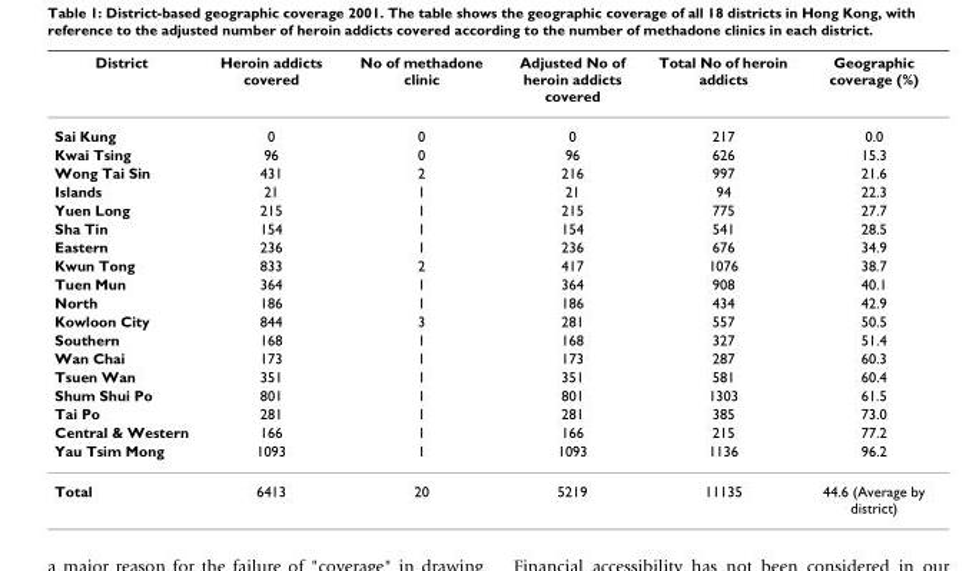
<table><thead><tr><td>District</td><td>Heroin addicts covered</td><td>No of methadone clinic</td><td>Adjusted No of heroin addicts covered</td><td>Total No of heroin addicts</td><td>Geographic coverage (%)</td></tr></thead><tbody><tr><td>Sai Kung</td><td>0</td><td>0</td><td>0</td><td>217</td><td>0.0</td></tr><tr><td>Kwai Tsing</td><td>96</td><td>0</td><td>96</td><td>626</td><td>15.3</td></tr><tr><td>Wong Tai Sin</td><td>431</td><td>2</td><td>216</td><td>997</td><td>21.6</td></tr><tr><td>Islands</td><td>21</td><td>1</td><td>21</td><td>94</td><td>22.3</td></tr><tr><td>Yuen Long</td><td>215</td><td>1</td><td>215</td><td>775</td><td>27.7</td></tr><tr><td>Sha Tin</td><td>154</td><td>1</td><td>154</td><td>541</td><td>28.5</td></tr><tr><td>Eastern</td><td>236</td><td>1</td><td>236</td><td>676</td><td>34.9</td></tr><tr><td>Kwun Tong</td><td>833</td><td>2</td><td>417</td><td>1076</td><td>38.7</td></tr><tr><td>Tuen Mun</td><td>364</td><td>1</td><td>364</td><td>908</td><td>40.1</td></tr><tr><td>North</td><td>186</td><td>1</td><td>186</td><td>434</td><td>42.9</td></tr><tr><td>Kowloon City</td><td>844</td><td>3</td><td>281</td><td>557</td><td>50.5</td></tr><tr><td>Southern</td><td>168</td><td>1</td><td>168</td><td>327</td><td>51.4</td></tr><tr><td>Wan Chai</td><td>173</td><td>1</td><td>173</td><td>287</td><td>60.3</td></tr><tr><td>Tsuen Wan</td><td>351</td><td>1</td><td>351</td><td>581</td><td>60.4</td></tr><tr><td>Shum Shui Po</td><td>801</td><td>1</td><td>801</td><td>1303</td><td>61.5</td></tr><tr><td>Tai Po</td><td>281</td><td>1</td><td>281</td><td>385</td><td>73.0</td></tr><tr><td>Central &amp; Western</td><td>166</td><td>1</td><td>166</td><td>215</td><td>77.2</td></tr><tr><td>Yau Tsim Mong</td><td>1093</td><td>1</td><td>1093</td><td>1136</td><td>96.2</td></tr><tr><td>Total</td><td>6413</td><td>20</td><td>5219</td><td>11135</td><td>44.6 (Average by district)</td></tr></tbody></table>